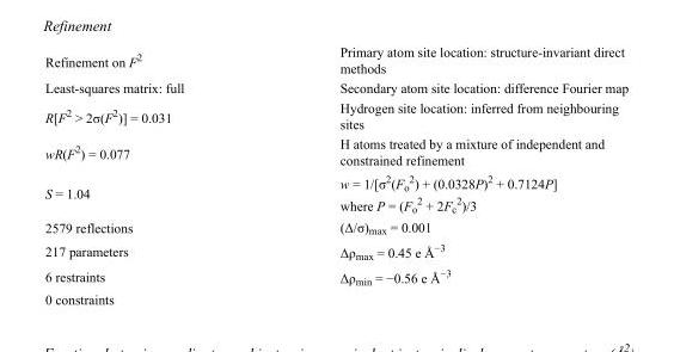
<table><tbody><tr><td>Refinement on F<sup>2</sup></td><td>Primary atom site location: structure-invariant direct methods</td></tr><tr><td>Least-squares matrix: full</td><td>Secondary atom site location: difference Fourier map</td></tr><tr><td>R[F<sup>2</sup> &gt; 2σ(F<sup>2</sup>)] = 0.031</td><td>Hydrogen site location: inferred from neighbouring sites</td></tr><tr><td>wR(F<sup>2</sup>) = 0.077</td><td>H atoms treated by a mixture of independent and constrained refinement</td></tr><tr><td>S = 1.04</td><td>w = 1/[σ<sup>2</sup>(F<sub>o</sub> <sup>2</sup>) + (0.0328P)<sup>2</sup> + 0.7124P] where P = (F<sub>o</sub> <sup>2</sup> + 2F<sub>c</sub> <sup>2</sup>)/3</td></tr><tr><td>2579 reflections</td><td>(Δ/σ)<sub>max</sub> = 0.001</td></tr><tr><td>217 parameters</td><td>Δρ<sub>max</sub> = 0.45 e Å<sup>−3</sup></td></tr><tr><td>6 restraints</td><td>Δρ<sub>min</sub> = −0.56 e Å<sup>−3</sup></td></tr><tr><td>0 constraints</td><td></td></tr></tbody></table>